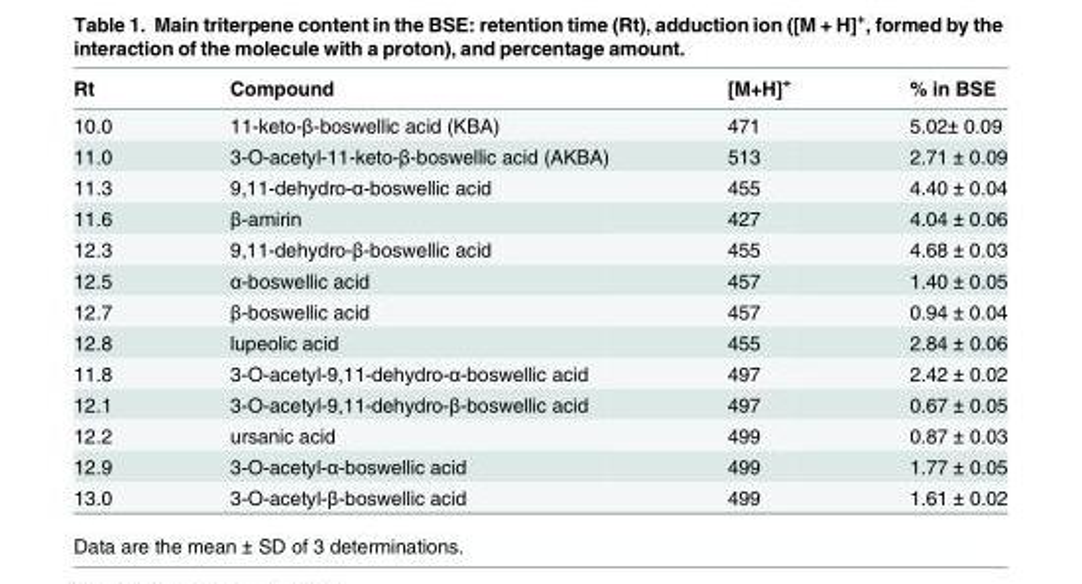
<table><thead><tr><td>Rt</td><td>Compound</td><td>[M+H]<sup>+</sup></td><td>% in BSE</td></tr></thead><tbody><tr><td>10.0</td><td>11-keto-β-boswellic acid (KBA)</td><td>471</td><td>5.02± 0.09</td></tr><tr><td>11.0</td><td>3-O-acetyl-11-keto-β-boswellic acid (AKBA)</td><td>513</td><td>2.71 ± 0.09</td></tr><tr><td>11.3</td><td>9,11-dehydro-α-boswellic acid</td><td>455</td><td>4.40 ± 0.04</td></tr><tr><td>11.6</td><td>β-amirin</td><td>427</td><td>4.04 ± 0.06</td></tr><tr><td>12.3</td><td>9,11-dehydro-β-boswellic acid</td><td>455</td><td>4.68 ± 0.03</td></tr><tr><td>12.5</td><td>α-boswellic acid</td><td>457</td><td>1.40 ± 0.05</td></tr><tr><td>12.7</td><td>β-boswellic acid</td><td>457</td><td>0.94 ± 0.04</td></tr><tr><td>12.8</td><td>lupeolic acid</td><td>455</td><td>2.84 ± 0.06</td></tr><tr><td>11.8</td><td>3-O-acetyl-9,11-dehydro-α-boswellic acid</td><td>497</td><td>2.42 ± 0.02</td></tr><tr><td>12.1</td><td>3-O-acetyl-9,11-dehydro-β-boswellic acid</td><td>497</td><td>0.67 ± 0.05</td></tr><tr><td>12.2</td><td>ursanic acid</td><td>499</td><td>0.87 ± 0.03</td></tr><tr><td>12.9</td><td>3-O-acetyl-α-boswellic acid</td><td>499</td><td>1.77 ± 0.05</td></tr><tr><td>13.0</td><td>3-O-acetyl-β-boswellic acid</td><td>499</td><td>1.61 ± 0.02</td></tr></tbody></table>